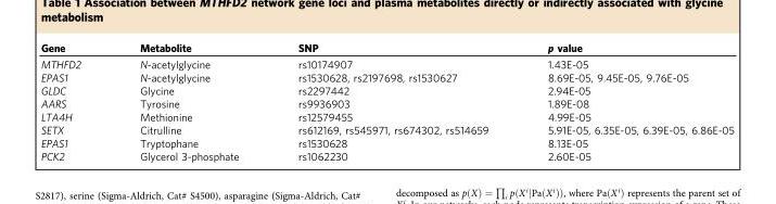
<table><thead><tr><td>Gene</td><td>Metabolite</td><td>SNP</td><td>p value</td></tr></thead><tbody><tr><td>MTHFD2</td><td>N-acetylglycine</td><td>rs10174907</td><td>1.43E-05</td></tr><tr><td>EPAS1</td><td>N-acetylglycine</td><td>rs1530628, rs2197698, rs1530627</td><td>8.69E-05, 9.45E-05, 9.76E-05</td></tr><tr><td>GLDC</td><td>Glycine</td><td>rs2297442</td><td>2.94E-05</td></tr><tr><td>AARS</td><td>Tyrosine</td><td>rs9936903</td><td>1.89E-08</td></tr><tr><td>LTA4H</td><td>Methionine</td><td>rs12579455</td><td>4.99E-05</td></tr><tr><td>SETX</td><td>Citrulline</td><td>rs612169, rs545971, rs674302, rs514659</td><td>5.91E-05, 6.35E-05, 6.39E-05, 6.86E-05</td></tr><tr><td>EPAS1</td><td>Tryptophane</td><td>rs1530628</td><td>8.13E-05</td></tr><tr><td>PCK2</td><td>Glycerol 3-phosphate</td><td>rs1062230</td><td>2.60E-05</td></tr></tbody></table>